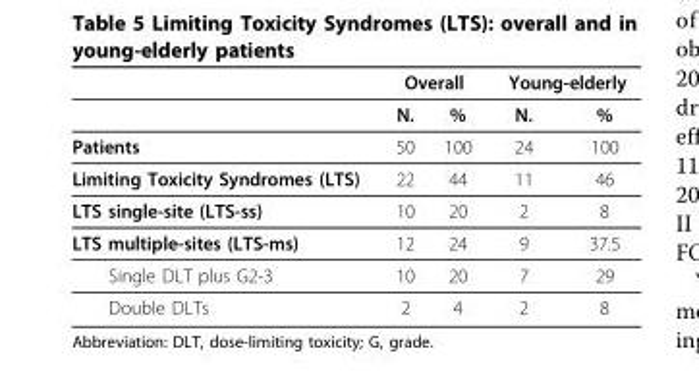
<table><thead><tr><td rowspan="2"></td><td colspan="2">Overall</td><td colspan="2">Young-elderly</td></tr><tr><td>N.</td><td>%</td><td>N.</td><td>%</td></tr></thead><tbody><tr><td>Patients</td><td>50</td><td>100</td><td>24</td><td>100</td></tr><tr><td>Limiting Toxicity Syndromes (LTS)</td><td>22</td><td>44</td><td>11</td><td>46</td></tr><tr><td>LTS single-site (LTS-ss)</td><td>10</td><td>20</td><td>2</td><td>8</td></tr><tr><td>LTS multiple-sites (LTS-ms)</td><td>12</td><td>24</td><td>9</td><td>37.5</td></tr><tr><td>Single DLT plus G2-3</td><td>10</td><td>20</td><td>7</td><td>29</td></tr><tr><td>Double DLTs</td><td>2</td><td>4</td><td>2</td><td>8</td></tr></tbody></table>